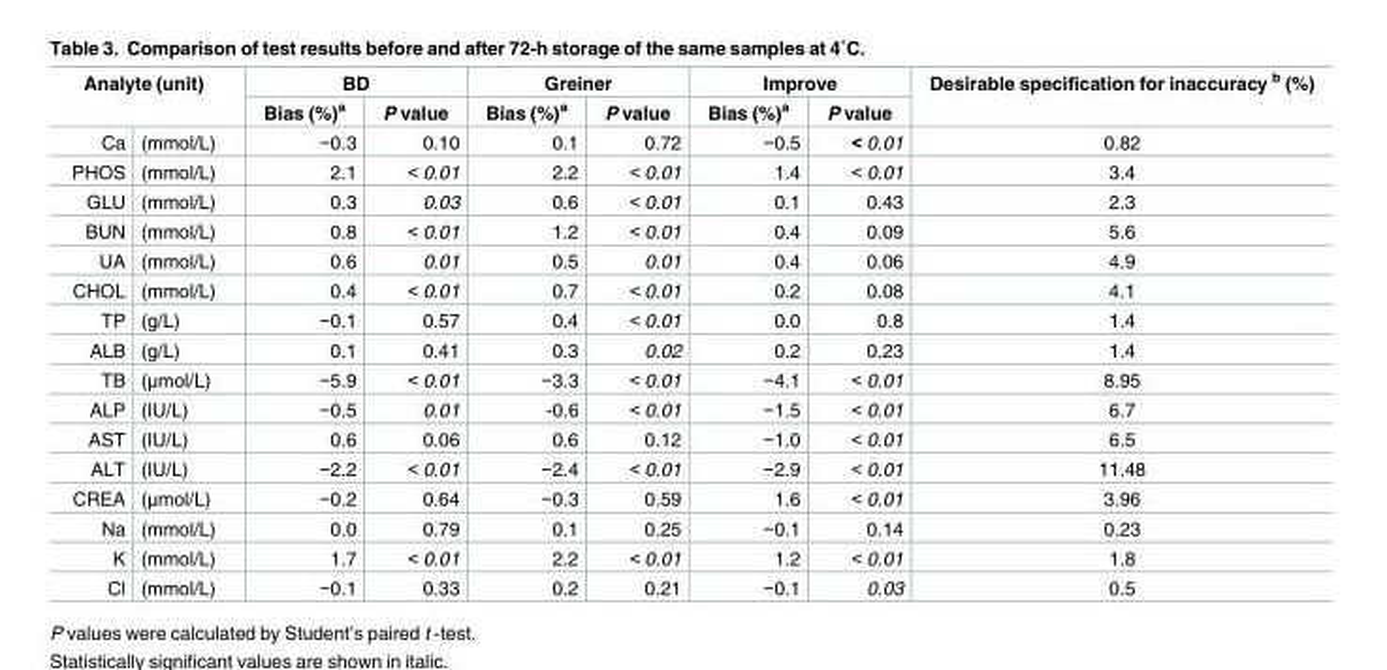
<table><thead><tr><td rowspan="2" colspan="2">Analyte (unit)</td><td colspan="2">BD</td><td colspan="2">Greiner</td><td colspan="2">Improve</td><td rowspan="3">Desirable specification for inaccuracy <sup>b</sup> (%) 0.82</td></tr><tr><td rowspan="2">Bias (%)<sup>a</sup> −0.3</td><td rowspan="2">P value 0.10</td><td rowspan="2">Bias (%)<sup>a</sup> 0.1</td><td rowspan="2">P value 0.72</td><td rowspan="2">Bias (%)<sup>a</sup> −0.5</td><td rowspan="2">P value &lt; 0.01</td></tr><tr><td>Ca</td><td>(mmol/L)</td></tr></thead><tbody><tr><td>PHOS</td><td>(mmol/L)</td><td>2.1</td><td>&lt; 0.01</td><td>2.2</td><td>&lt; 0.01</td><td>1.4</td><td>&lt; 0.01</td><td>3.4</td></tr><tr><td>GLU</td><td>(mmol/L)</td><td>0.3</td><td>0.03</td><td>0.6</td><td>&lt; 0.01</td><td>0.1</td><td>0.43</td><td>2.3</td></tr><tr><td>BUN</td><td>(mmol/L)</td><td>0.8</td><td>&lt; 0.01</td><td>1.2</td><td>&lt; 0.01</td><td>0.4</td><td>0.09</td><td>5.6</td></tr><tr><td>UA</td><td>(mmol/L)</td><td>0.6</td><td>0.01</td><td>0.5</td><td>0.01</td><td>0.4</td><td>0.06</td><td>4.9</td></tr><tr><td>CHOL</td><td>(mmol/L)</td><td>0.4</td><td>&lt; 0.01</td><td>0.7</td><td>&lt; 0.01</td><td>0.2</td><td>0.08</td><td>4.1</td></tr><tr><td>TP</td><td>(g/L)</td><td>−0.1</td><td>0.57</td><td>0.4</td><td>&lt; 0.01</td><td>0.0</td><td>0.8</td><td>1.4</td></tr><tr><td>ALB</td><td>(g/L)</td><td>0.1</td><td>0.41</td><td>0.3</td><td>0.02</td><td>0.2</td><td>0.23</td><td>1.4</td></tr><tr><td>TB</td><td>(μmol/L)</td><td>−5.9</td><td>&lt; 0.01</td><td>−3.3</td><td>&lt; 0.01</td><td>−4.1</td><td>&lt; 0.01</td><td>8.95</td></tr><tr><td>ALP</td><td>(IU/L)</td><td>−0.5</td><td>0.01</td><td>-0.6</td><td>&lt; 0.01</td><td>−1.5</td><td>&lt; 0.01</td><td>6.7</td></tr><tr><td>AST</td><td>(IU/L)</td><td>0.6</td><td>0.06</td><td>0.6</td><td>0.12</td><td>−1.0</td><td>&lt; 0.01</td><td>6.5</td></tr><tr><td>ALT</td><td>(IU/L)</td><td>−2.2</td><td>&lt; 0.01</td><td>−2.4</td><td>&lt; 0.01</td><td>−2.9</td><td>&lt; 0.01</td><td>11.48</td></tr><tr><td>CREA</td><td>(μmol/L)</td><td>−0.2</td><td>0.64</td><td>−0.3</td><td>0.59</td><td>1.6</td><td>&lt; 0.01</td><td>3.96</td></tr><tr><td>Na</td><td>(mmol/L)</td><td>0.0</td><td>0.79</td><td>0.1</td><td>0.25</td><td>−0.1</td><td>0.14</td><td>0.23</td></tr><tr><td>K</td><td>(mmol/L)</td><td>1.7</td><td>&lt; 0.01</td><td>2.2</td><td>&lt; 0.01</td><td>1.2</td><td>&lt; 0.01</td><td>1.8</td></tr><tr><td>Cl</td><td>(mmol/L)</td><td>−0.1</td><td>0.33</td><td>0.2</td><td>0.21</td><td>−0.1</td><td>0.03</td><td>0.5</td></tr></tbody></table>